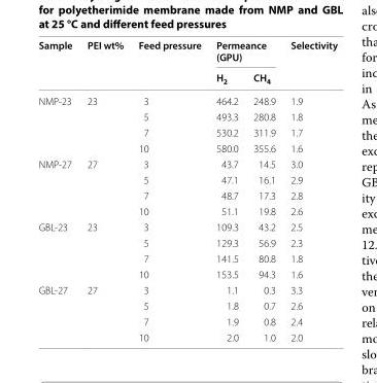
<table><thead><tr><td rowspan="2">Sample</td><td rowspan="2">PEI wt%</td><td rowspan="2">Feed pressure</td><td colspan="2">Permeance (GPU)</td><td rowspan="2">Selectivity</td></tr><tr><td>H<sub>2</sub></td><td>CH<sub>4</sub></td></tr></thead><tbody><tr><td rowspan="4">NMP‑23</td><td rowspan="4">23</td><td>3</td><td>464.2</td><td>248.9</td><td>1.9</td></tr><tr><td>5</td><td>493.3</td><td>280.8</td><td>1.8</td></tr><tr><td>7</td><td>530.2</td><td>311.9</td><td>1.7</td></tr><tr><td>10</td><td>580.0</td><td>355.6</td><td>1.6</td></tr><tr><td rowspan="4">NMP‑27</td><td rowspan="4">27</td><td>3</td><td>43.7</td><td>14.5</td><td>3.0</td></tr><tr><td>5</td><td>47.1</td><td>16.1</td><td>2.9</td></tr><tr><td>7</td><td>48.7</td><td>17.3</td><td>2.8</td></tr><tr><td>10</td><td>51.1</td><td>19.8</td><td>2.6</td></tr><tr><td rowspan="4">GBL‑23</td><td rowspan="4">23</td><td>3</td><td>109.3</td><td>43.2</td><td>2.5</td></tr><tr><td>5</td><td>129.3</td><td>56.9</td><td>2.3</td></tr><tr><td>7</td><td>141.5</td><td>80.8</td><td>1.8</td></tr><tr><td>10</td><td>153.5</td><td>94.3</td><td>1.6</td></tr><tr><td rowspan="4">GBL‑27</td><td rowspan="4">27</td><td>3</td><td>1.1</td><td>0.3</td><td>3.3</td></tr><tr><td>5</td><td>1.8</td><td>0.7</td><td>2.6</td></tr><tr><td>7</td><td>1.9</td><td>0.8</td><td>2.4</td></tr><tr><td>10</td><td>2.0</td><td>1.0</td><td>2.0</td></tr></tbody></table>